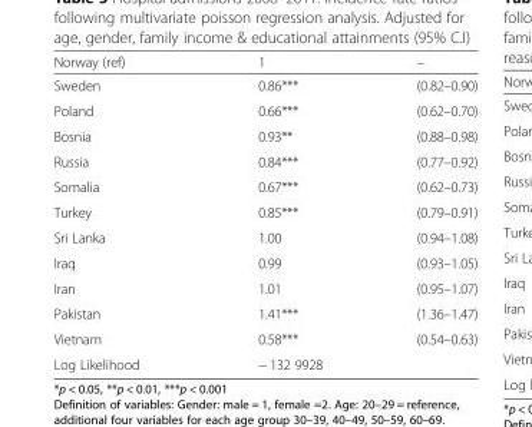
<table><thead><tr><td>Norway (ref)</td><td>1</td><td>–</td></tr></thead><tbody><tr><td>Sweden</td><td>0.86***</td><td>(0.82–0.90)</td></tr><tr><td>Poland</td><td>0.66***</td><td>(0.62–0.70)</td></tr><tr><td>Bosnia</td><td>0.93**</td><td>(0.88–0.98)</td></tr><tr><td>Russia</td><td>0.84***</td><td>(0.77–0.92)</td></tr><tr><td>Somalia</td><td>0.67***</td><td>(0.62–0.73)</td></tr><tr><td>Turkey</td><td>0.85***</td><td>(0.79–0.91)</td></tr><tr><td>Sri Lanka</td><td>1.00</td><td>(0.94–1.08)</td></tr><tr><td>Iraq</td><td>0.99</td><td>(0.93–1.05)</td></tr><tr><td>Iran</td><td>1.01</td><td>(0.95–1.07)</td></tr><tr><td>Pakistan</td><td>1.41***</td><td>(1.36–1.47)</td></tr><tr><td>Vietnam</td><td>0.58***</td><td>(0.54–0.63)</td></tr><tr><td>Log Likelihood</td><td colspan="2">− 132 9928</td></tr></tbody></table>